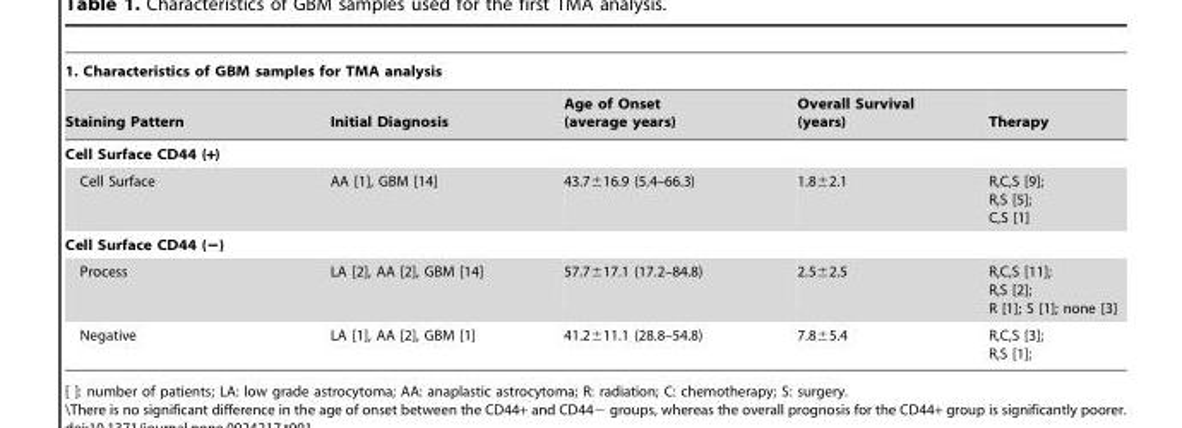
<table><thead><tr><td colspan="5">1. Characteristics of GBM samples for TMA analysis</td></tr><tr><td>Staining Pattern</td><td>Initial Diagnosis</td><td>Age of Onset (average years)</td><td>Overall Survival (years)</td><td>Therapy</td></tr></thead><tbody><tr><td colspan="5">Cell Surface CD44 (+)</td></tr><tr><td>Cell Surface</td><td>AA [1], GBM [14]</td><td>43.7±16.9 (5.4–66.3)</td><td>1.8±2.1</td><td>R,C,S [9]; R,S [5]; C,S [1]</td></tr><tr><td colspan="5">Cell Surface CD44 (−)</td></tr><tr><td>Process</td><td>LA [2], AA [2], GBM [14]</td><td>57.7±17.1 (17.2–84.8)</td><td>2.5±2.5</td><td>R,C,S [11]; R,S [2]; R [1]; S [1]; none [3]</td></tr><tr><td>Negative</td><td>LA [1], AA [2], GBM [1]</td><td>41.2±11.1 (28.8–54.8)</td><td>7.8±5.4</td><td>R,C,S [3]; R,S [1];</td></tr></tbody></table>